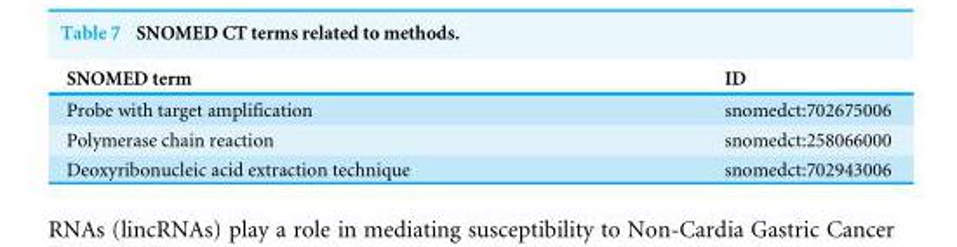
<table><thead><tr><td>SNOMED term</td><td>ID</td></tr></thead><tbody><tr><td>Probe with target amplification</td><td>snomedct:702675006</td></tr><tr><td>Polymerase chain reaction</td><td>snomedct:258066000</td></tr><tr><td>Deoxyribonucleic acid extraction technique</td><td>snomedct:702943006</td></tr></tbody></table>